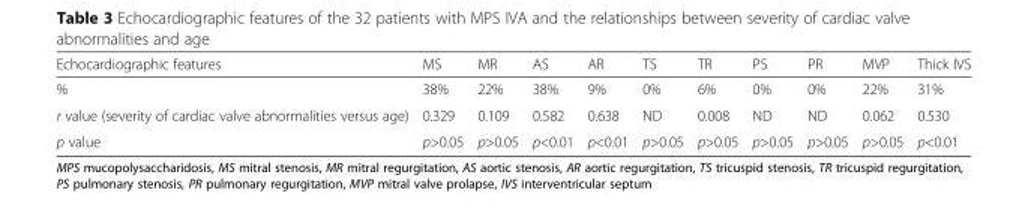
<table><thead><tr><td>Echocardiographic features</td><td>MS</td><td>MR</td><td>AS</td><td>AR</td><td>TS</td><td>TR</td><td>PS</td><td>PR</td><td>MVP</td><td>Thick IVS</td></tr></thead><tbody><tr><td>%</td><td>38%</td><td>22%</td><td>38%</td><td>9%</td><td>0%</td><td>6%</td><td>0%</td><td>0%</td><td>22%</td><td>31%</td></tr><tr><td>r value (severity of cardiac valve abnormalities versus age)</td><td>0.329</td><td>0.109</td><td>0.582</td><td>0.638</td><td>ND</td><td>0.008</td><td>ND</td><td>ND</td><td>0.062</td><td>0.530</td></tr><tr><td>p value</td><td>p&gt;0.05</td><td>p&gt;0.05</td><td>p&lt;0.01</td><td>p&lt;0.01</td><td>p&gt;0.05</td><td>p&gt;0.05</td><td>p&gt;0.05</td><td>p&gt;0.05</td><td>p&gt;0.05</td><td>p&lt;0.01</td></tr></tbody></table>